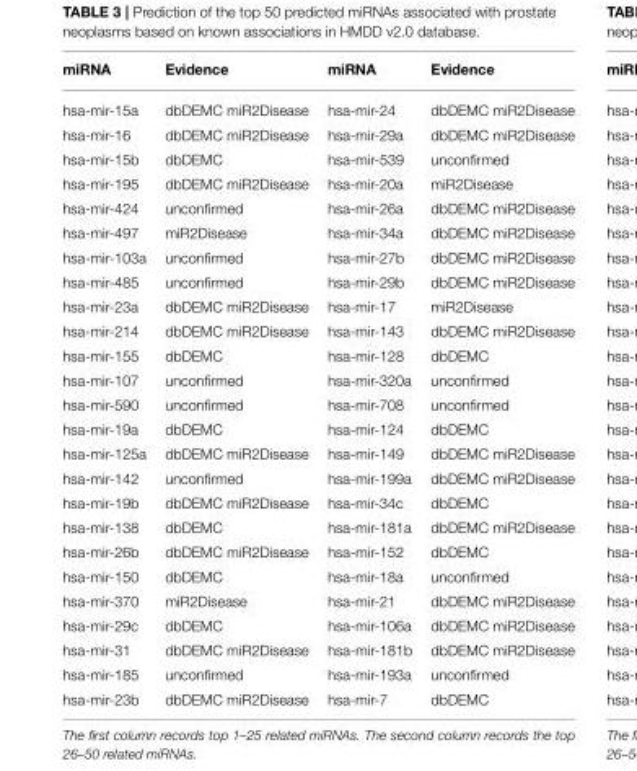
<table><thead><tr><td>miRNA</td><td>Evidence</td><td>miRNA</td><td>Evidence</td></tr></thead><tbody><tr><td>hsa-mir-15a</td><td>dbDEMC miR2Disease</td><td>hsa-mir-24</td><td>dbDEMC miR2Disease</td></tr><tr><td>hsa-mir-16</td><td>dbDEMC miR2Disease</td><td>hsa-mir-29a</td><td>dbDEMC miR2Disease</td></tr><tr><td>hsa-mir-15b</td><td>dbDEMC</td><td>hsa-mir-539</td><td>unconfirmed</td></tr><tr><td>hsa-mir-195</td><td>dbDEMC miR2Disease</td><td>hsa-mir-20a</td><td>miR2Disease</td></tr><tr><td>hsa-mir-424</td><td>unconfirmed</td><td>hsa-mir-26a</td><td>dbDEMC miR2Disease</td></tr><tr><td>hsa-mir-497</td><td>miR2Disease</td><td>hsa-mir-34a</td><td>dbDEMC miR2Disease</td></tr><tr><td>hsa-mir-103a</td><td>unconfirmed</td><td>hsa-mir-27b</td><td>dbDEMC miR2Disease</td></tr><tr><td>hsa-mir-485</td><td>unconfirmed</td><td>hsa-mir-29b</td><td>dbDEMC miR2Disease</td></tr><tr><td>hsa-mir-23a</td><td>dbDEMC miR2Disease</td><td>hsa-mir-17</td><td>miR2Disease</td></tr><tr><td>hsa-mir-214</td><td>dbDEMC miR2Disease</td><td>hsa-mir-143</td><td>dbDEMC miR2Disease</td></tr><tr><td>hsa-mir-155</td><td>dbDEMC</td><td>hsa-mir-128</td><td>dbDEMC</td></tr><tr><td>hsa-mir-107</td><td>unconfirmed</td><td>hsa-mir-320a</td><td>unconfirmed</td></tr><tr><td>hsa-mir-590</td><td>unconfirmed</td><td>hsa-mir-708</td><td>unconfirmed</td></tr><tr><td>hsa-mir-19a</td><td>dbDEMC</td><td>hsa-mir-124</td><td>dbDEMC</td></tr><tr><td>hsa-mir-125a</td><td>dbDEMC miR2Disease</td><td>hsa-mir-149</td><td>dbDEMC miR2Disease</td></tr><tr><td>hsa-mir-142</td><td>unconfirmed</td><td>hsa-mir-199a</td><td>dbDEMC miR2Disease</td></tr><tr><td>hsa-mir-19b</td><td>dbDEMC miR2Disease</td><td>hsa-mir-34c</td><td>dbDEMC</td></tr><tr><td>hsa-mir-138</td><td>dbDEMC</td><td>hsa-mir-181a</td><td>dbDEMC miR2Disease</td></tr><tr><td>hsa-mir-26b</td><td>dbDEMC miR2Disease</td><td>hsa-mir-152</td><td>dbDEMC</td></tr><tr><td>hsa-mir-150</td><td>dbDEMC</td><td>hsa-mir-18a</td><td>unconfirmed</td></tr><tr><td>hsa-mir-370</td><td>miR2Disease</td><td>hsa-mir-21</td><td>dbDEMC miR2Disease</td></tr><tr><td>hsa-mir-29c</td><td>dbDEMC</td><td>hsa-mir-106a</td><td>dbDEMC miR2Disease</td></tr><tr><td>hsa-mir-31</td><td>dbDEMC miR2Disease</td><td>hsa-mir-181b</td><td>dbDEMC miR2Disease</td></tr><tr><td>hsa-mir-185</td><td>unconfirmed</td><td>hsa-mir-193a</td><td>unconfirmed</td></tr><tr><td>hsa-mir-23b</td><td>dbDEMC miR2Disease</td><td>hsa-mir-7</td><td>dbDEMC</td></tr></tbody></table>